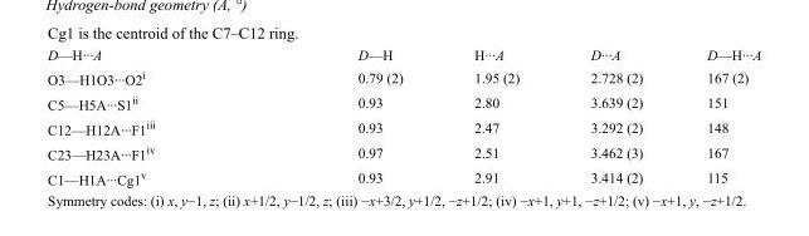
<table><tbody><tr><td>D—H···A</td><td>D—H</td><td>H···A</td><td>D···A</td><td>D—H···A</td></tr><tr><td>O3—H1O3···O2<sup>i</sup></td><td>0.79 (2)</td><td>1.95 (2)</td><td>2.728 (2)</td><td>167 (2)</td></tr><tr><td>C5—H5A···S1<sup>ii</sup></td><td>0.93</td><td>2.80</td><td>3.639 (2)</td><td>151</td></tr><tr><td>C12—H12A···F1<sup>iii</sup></td><td>0.93</td><td>2.47</td><td>3.292 (2)</td><td>148</td></tr><tr><td>C23—H23A···F1<sup>iv</sup></td><td>0.97</td><td>2.51</td><td>3.462 (3)</td><td>167</td></tr><tr><td>C1—H1A···Cg1<sup>v</sup></td><td>0.93</td><td>2.91</td><td>3.414 (2)</td><td>115</td></tr></tbody></table>